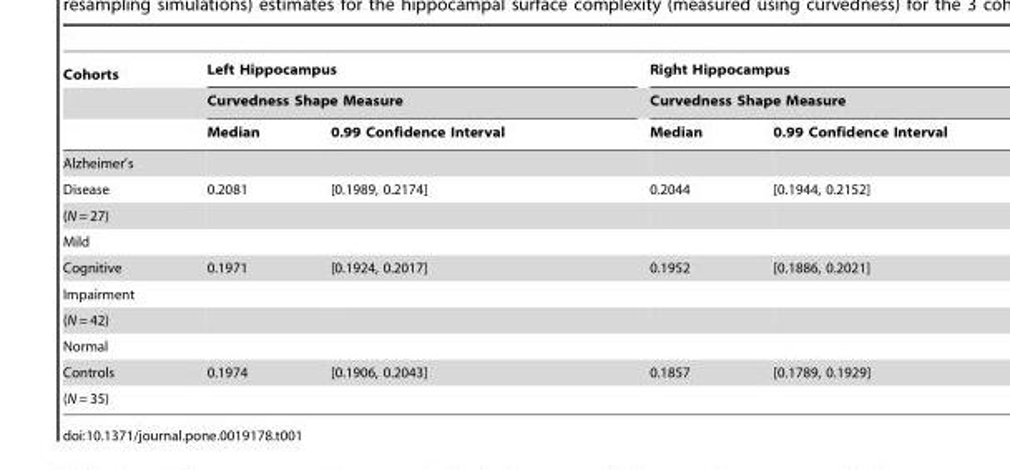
<table><thead><tr><td rowspan="3">Cohorts</td><td rowspan="2" colspan="2">Left Hippocampus Curvedness Shape Measure</td><td rowspan="2" colspan="2">Right Hippocampus Curvedness Shape Measure</td></tr><tr></tr><tr><td>Median</td><td>0.99 Confidence Interval</td><td>Median</td><td>0.99 Confidence Interval</td></tr></thead><tbody><tr><td colspan="5">Alzheimer’s</td></tr><tr><td>Disease</td><td>0.2081</td><td>[0.1989, 0.2174]</td><td>0.2044</td><td>[0.1944, 0.2152]</td></tr><tr><td colspan="5">(N = 27)</td></tr><tr><td colspan="5">Mild</td></tr><tr><td>Cognitive</td><td>0.1971</td><td>[0.1924, 0.2017]</td><td>0.1952</td><td>[0.1886, 0.2021]</td></tr><tr><td colspan="5">Impairment</td></tr><tr><td colspan="5">(N = 42)</td></tr><tr><td colspan="5">Normal</td></tr><tr><td>Controls</td><td>0.1974</td><td>[0.1906, 0.2043]</td><td>0.1857</td><td>[0.1789, 0.1929]</td></tr><tr><td>(N = 35)</td><td></td><td></td><td></td><td></td></tr></tbody></table>